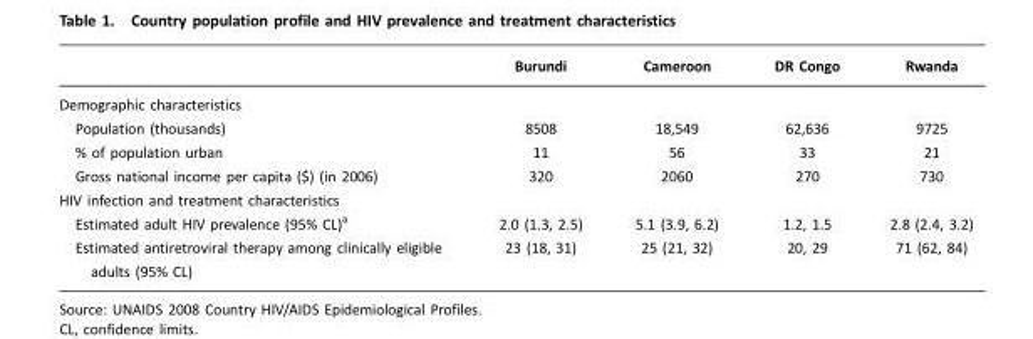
<table><thead><tr><td></td><td>Burundi</td><td>Cameroon</td><td>DR Congo</td><td>Rwanda</td></tr></thead><tbody><tr><td colspan="5">Demographic characteristics</td></tr><tr><td>Population (thousands)</td><td>8508</td><td>18,549</td><td>62,636</td><td>9725</td></tr><tr><td>% of population urban</td><td>11</td><td>56</td><td>33</td><td>21</td></tr><tr><td>Gross national income per capita ($) (in 2006)</td><td>320</td><td>2060</td><td>270</td><td>730</td></tr><tr><td colspan="5">HIV infection and treatment characteristics</td></tr><tr><td>Estimated adult HIV prevalence (95% CL)<sup>a</sup></td><td>2.0 (1.3, 2.5)</td><td>5.1 (3.9, 6.2)</td><td>1.2, 1.5</td><td>2.8 (2.4, 3.2)</td></tr><tr><td>Estimated antiretroviral therapy among clinically eligible adults (95% CL)</td><td>23 (18, 31)</td><td>25 (21, 32)</td><td>20, 29</td><td>71 (62, 84)</td></tr></tbody></table>